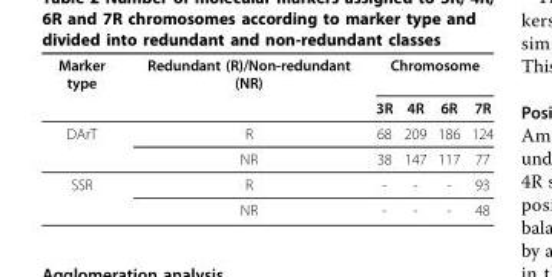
<table><thead><tr><td rowspan="2">Marker type</td><td rowspan="2">Redundant (R)/Non-redundant (NR)</td><td colspan="4">Chromosome</td></tr><tr><td>3R</td><td>4R</td><td>6R</td><td>7R</td></tr></thead><tbody><tr><td rowspan="2">DArT</td><td>R</td><td>68</td><td>209</td><td>186</td><td>124</td></tr><tr><td>NR</td><td>38</td><td>147</td><td>117</td><td>77</td></tr><tr><td rowspan="2">SSR</td><td>R</td><td>-</td><td>-</td><td>-</td><td>93</td></tr><tr><td>NR</td><td>-</td><td>-</td><td>-</td><td>48</td></tr></tbody></table>